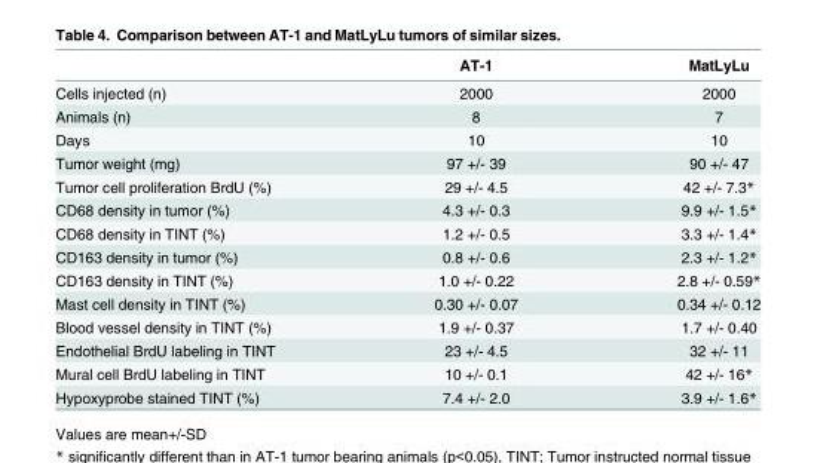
<table><thead><tr><td></td><td>AT-1</td><td>MatLyLu</td></tr></thead><tbody><tr><td>Cells injected (n)</td><td>2000</td><td>2000</td></tr><tr><td>Animals (n)</td><td>8</td><td>7</td></tr><tr><td>Days</td><td>10</td><td>10</td></tr><tr><td>Tumor weight (mg)</td><td>97 +/- 39</td><td>90 +/- 47</td></tr><tr><td>Tumor cell proliferation BrdU (%)</td><td>29 +/- 4.5</td><td>42 +/- 7.3*</td></tr><tr><td>CD68 density in tumor (%)</td><td>4.3 +/- 0.3</td><td>9.9 +/- 1.5*</td></tr><tr><td>CD68 density in TINT (%)</td><td>1.2 +/- 0.5</td><td>3.3 +/- 1.4*</td></tr><tr><td>CD163 density in tumor (%)</td><td>0.8 +/- 0.6</td><td>2.3 +/- 1.2*</td></tr><tr><td>CD163 density in TINT (%)</td><td>1.0 +/- 0.22</td><td>2.8 +/- 0.59*</td></tr><tr><td>Mast cell density in TINT (%)</td><td>0.30 +/- 0.07</td><td>0.34 +/- 0.12</td></tr><tr><td>Blood vessel density in TINT (%)</td><td>1.9 +/- 0.37</td><td>1.7 +/- 0.40</td></tr><tr><td>Endothelial BrdU labeling in TINT</td><td>23 +/- 4.5</td><td>32 +/- 11</td></tr><tr><td>Mural cell BrdU labeling in TINT</td><td>10 +/- 0.1</td><td>42 +/- 16*</td></tr><tr><td>Hypoxyprobe stained TINT (%)</td><td>7.4 +/- 2.0</td><td>3.9 +/- 1.6*</td></tr></tbody></table>